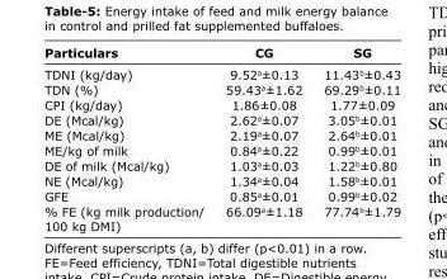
<table><thead><tr><td>Particulars</td><td>CG</td><td>SG</td></tr></thead><tbody><tr><td>TDNI (kg/day)</td><td>9.52<sup>a</sup>±0.13</td><td>11.43<sup>b</sup>±0.43</td></tr><tr><td>TDN (%)</td><td>59.43<sup>a</sup>±1.62</td><td>69.29<sup>b</sup>±0.11</td></tr><tr><td>CPI (kg/day)</td><td>1.86±0.08</td><td>1.77±0.09</td></tr><tr><td>DE (Mcal/kg)</td><td>2.62<sup>a</sup>±0.07</td><td>3.05<sup>b</sup>±0.01</td></tr><tr><td>ME (Mcal/kg)</td><td>2.19<sup>a</sup>±0.07</td><td>2.64<sup>b</sup>±0.01</td></tr><tr><td>ME/kg of milk</td><td>0.84<sup>a</sup>±0.22</td><td>0.99<sup>b</sup>±0.01</td></tr><tr><td>DE of milk (Mcal/kg)</td><td>1.03<sup>a</sup>±0.03</td><td>1.22<sup>b</sup>±0.80</td></tr><tr><td>NE (Mcal/kg)</td><td>1.34<sup>a</sup>±0.04</td><td>1.58<sup>b</sup>±0.01</td></tr><tr><td>GFE</td><td>0.85<sup>a</sup>±0.01</td><td>0.99<sup>b</sup>±0.02</td></tr><tr><td>% FE (kg milk production/ 100 kg DMI)</td><td>66.09<sup>a</sup>±1.18</td><td>77.74<sup>b</sup>±1.79</td></tr></tbody></table>